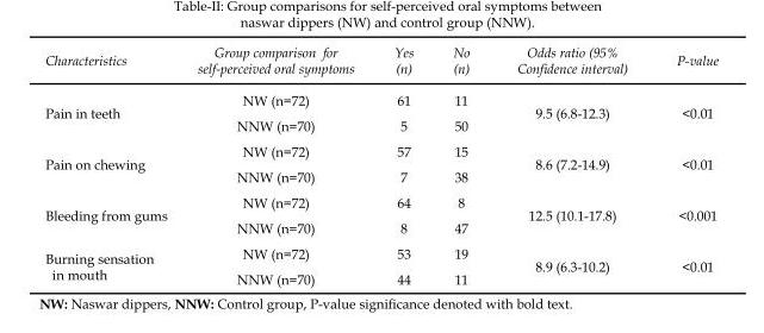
<table><thead><tr><td>Characteristics</td><td>Group comparison for self-perceived oral symptoms</td><td>Yes (n)</td><td>No (n)</td><td>Odds ratio (95% Confidence interval)</td><td>P-value</td></tr></thead><tbody><tr><td rowspan="2">Pain in teeth</td><td>NW (n=72)</td><td>61</td><td>11</td><td rowspan="2">9.5 (6.8-12.3)</td><td rowspan="2">&lt;0.01</td></tr><tr><td>NNW (n=70)</td><td>5</td><td>50</td></tr><tr><td rowspan="2">Pain on chewing</td><td>NW (n=72)</td><td>57</td><td>15</td><td rowspan="2">8.6 (7.2-14.9)</td><td rowspan="2">&lt;0.01</td></tr><tr><td>NNW (n=70)</td><td>7</td><td>38</td></tr><tr><td rowspan="2">Bleeding from gums</td><td>NW (n=72)</td><td>64</td><td>8</td><td rowspan="2">12.5 (10.1-17.8)</td><td rowspan="2">&lt;0.001</td></tr><tr><td>NNW (n=70)</td><td>8</td><td>47</td></tr><tr><td rowspan="2">Burning sensation in mouth</td><td>NW (n=72)</td><td>53</td><td>19</td><td rowspan="2">8.9 (6.3-10.2)</td><td rowspan="2">&lt;0.01</td></tr><tr><td>NNW (n=70)</td><td>44</td><td>11</td></tr></tbody></table>